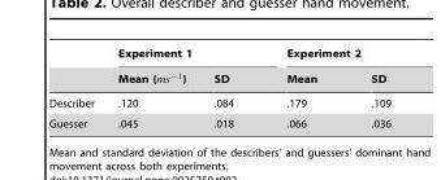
<table><thead><tr><td rowspan="2"></td><td colspan="2">Experiment 1</td><td colspan="2">Experiment 2</td></tr><tr><td>Mean (ms{1)</td><td>SD</td><td>Mean</td><td>SD</td></tr></thead><tbody><tr><td>Describer</td><td>.120</td><td>.084</td><td>.179</td><td>.109</td></tr><tr><td>Guesser</td><td>.045</td><td>.018</td><td>.066</td><td>.036</td></tr></tbody></table>